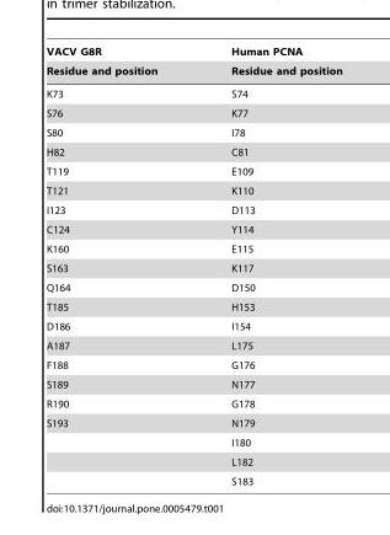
<table><thead><tr><td rowspan="2">VACV G8R Residue and position</td><td rowspan="2">Human PCNA Residue and position</td></tr><tr></tr></thead><tbody><tr><td>K73</td><td>S74</td></tr><tr><td>S76</td><td>K77</td></tr><tr><td>S80</td><td>I78</td></tr><tr><td>H82</td><td>C81</td></tr><tr><td>T119</td><td>E109</td></tr><tr><td>T121</td><td>K110</td></tr><tr><td>I123</td><td>D113</td></tr><tr><td>C124</td><td>Y114</td></tr><tr><td>K160</td><td>E115</td></tr><tr><td>S163</td><td>K117</td></tr><tr><td>Q164</td><td>D150</td></tr><tr><td>T185</td><td>H153</td></tr><tr><td>D186</td><td>I154</td></tr><tr><td>A187</td><td>L175</td></tr><tr><td>F188</td><td>G176</td></tr><tr><td>S189</td><td>N177</td></tr><tr><td>R190</td><td>G178</td></tr><tr><td rowspan="4">S193</td><td>N179</td></tr><tr><td>I180</td></tr><tr><td>L182</td></tr><tr><td>S183</td></tr></tbody></table>